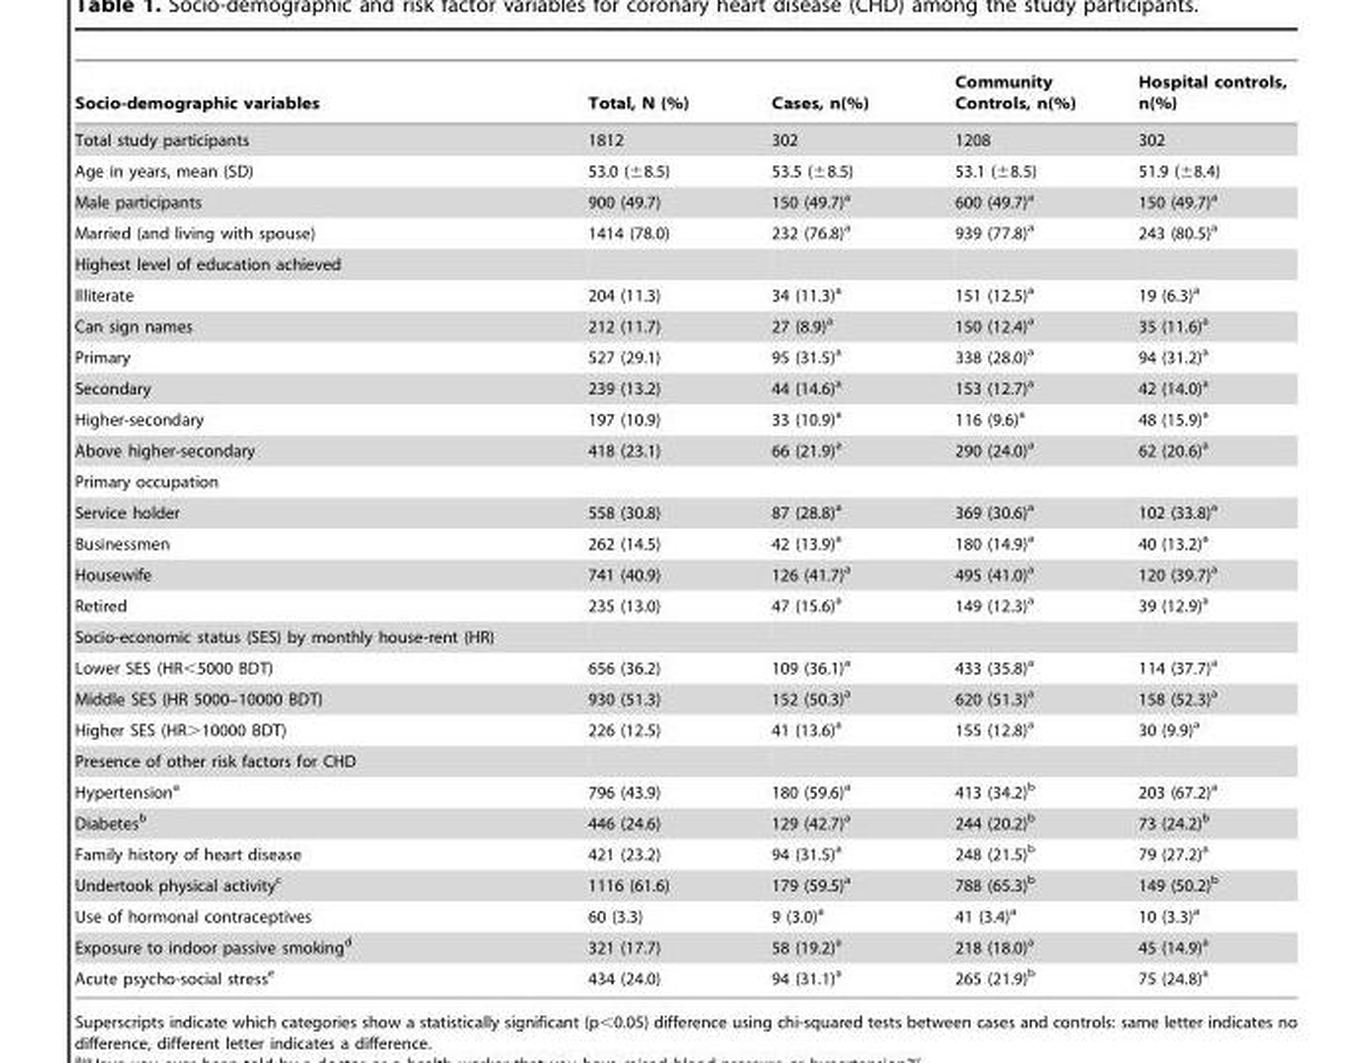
<table><thead><tr><td>Socio-demographic variables</td><td>Total, N (%)</td><td>Cases, n(%)</td><td>Community Controls, n(%)</td><td>Hospital controls, n(%)</td></tr></thead><tbody><tr><td>Total study participants</td><td>1812</td><td>302</td><td>1208</td><td>302</td></tr><tr><td>Age in years, mean (SD)</td><td>53.0 (±8.5)</td><td>53.5 (±8.5)</td><td>53.1 (±8.5)</td><td>51.9 (±8.4)</td></tr><tr><td>Male participants</td><td>900 (49.7)</td><td>150 (49.7)<sup>a</sup></td><td>600 (49.7)<sup>a</sup></td><td>150 (49.7)<sup>a</sup></td></tr><tr><td>Married (and living with spouse)</td><td>1414 (78.0)</td><td>232 (76.8)<sup>a</sup></td><td>939 (77.8)<sup>a</sup></td><td>243 (80.5)<sup>a</sup></td></tr><tr><td colspan="5">Highest level of education achieved</td></tr><tr><td>Illiterate</td><td>204 (11.3)</td><td>34 (11.3)<sup>a</sup></td><td>151 (12.5)<sup>a</sup></td><td>19 (6.3)<sup>a</sup></td></tr><tr><td>Can sign names</td><td>212 (11.7)</td><td>27 (8.9)<sup>a</sup></td><td>150 (12.4)<sup>a</sup></td><td>35 (11.6)<sup>a</sup></td></tr><tr><td>Primary</td><td>527 (29.1)</td><td>95 (31.5)<sup>a</sup></td><td>338 (28.0)<sup>a</sup></td><td>94 (31.2)<sup>a</sup></td></tr><tr><td>Secondary</td><td>239 (13.2)</td><td>44 (14.6)<sup>a</sup></td><td>153 (12.7)<sup>a</sup></td><td>42 (14.0)<sup>a</sup></td></tr><tr><td>Higher-secondary</td><td>197 (10.9)</td><td>33 (10.9)<sup>a</sup></td><td>116 (9.6)<sup>a</sup></td><td>48 (15.9)<sup>a</sup></td></tr><tr><td>Above higher-secondary</td><td>418 (23.1)</td><td>66 (21.9)<sup>a</sup></td><td>290 (24.0)<sup>a</sup></td><td>62 (20.6)<sup>a</sup></td></tr><tr><td colspan="5">Primary occupation</td></tr><tr><td>Service holder</td><td>558 (30.8)</td><td>87 (28.8)<sup>a</sup></td><td>369 (30.6)<sup>a</sup></td><td>102 (33.8)<sup>a</sup></td></tr><tr><td>Businessmen</td><td>262 (14.5)</td><td>42 (13.9)<sup>a</sup></td><td>180 (14.9)<sup>a</sup></td><td>40 (13.2)<sup>a</sup></td></tr><tr><td>Housewife</td><td>741 (40.9)</td><td>126 (41.7)<sup>a</sup></td><td>495 (41.0)<sup>a</sup></td><td>120 (39.7)<sup>a</sup></td></tr><tr><td>Retired</td><td>235 (13.0)</td><td>47 (15.6)<sup>a</sup></td><td>149 (12.3)<sup>a</sup></td><td>39 (12.9)<sup>a</sup></td></tr><tr><td colspan="5">Socio-economic status (SES) by monthly house-rent (HR)</td></tr><tr><td>Lower SES (HR&lt;5000 BDT)</td><td>656 (36.2)</td><td>109 (36.1)<sup>a</sup></td><td>433 (35.8)<sup>a</sup></td><td>114 (37.7)<sup>a</sup></td></tr><tr><td>Middle SES (HR 5000–10000 BDT)</td><td>930 (51.3)</td><td>152 (50.3)<sup>a</sup></td><td>620 (51.3)<sup>a</sup></td><td>158 (52.3)<sup>a</sup></td></tr><tr><td>Higher SES (HR&gt;10000 BDT)</td><td>226 (12.5)</td><td>41 (13.6)<sup>a</sup></td><td>155 (12.8)<sup>a</sup></td><td>30 (9.9)<sup>a</sup></td></tr><tr><td colspan="5">Presence of other risk factors for CHD</td></tr><tr><td>Hypertension<sup>a</sup></td><td>796 (43.9)</td><td>180 (59.6)<sup>a</sup></td><td>413 (34.2)<sup>b</sup></td><td>203 (67.2)<sup>a</sup></td></tr><tr><td>Diabetes<sup>b</sup></td><td>446 (24.6)</td><td>129 (42.7)<sup>a</sup></td><td>244 (20.2)<sup>b</sup></td><td>73 (24.2)<sup>b</sup></td></tr><tr><td>Family history of heart disease</td><td>421 (23.2)</td><td>94 (31.5)<sup>a</sup></td><td>248 (21.5)<sup>b</sup></td><td>79 (27.2)<sup>a</sup></td></tr><tr><td>Undertook physical activity<sup>c</sup></td><td>1116 (61.6)</td><td>179 (59.5)<sup>a</sup></td><td>788 (65.3)<sup>b</sup></td><td>149 (50.2)<sup>b</sup></td></tr><tr><td>Use of hormonal contraceptives</td><td>60 (3.3)</td><td>9 (3.0)<sup>a</sup></td><td>41 (3.4)<sup>a</sup></td><td>10 (3.3)<sup>a</sup></td></tr><tr><td>Exposure to indoor passive smoking<sup>d</sup></td><td>321 (17.7)</td><td>58 (19.2)<sup>a</sup></td><td>218 (18.0)<sup>a</sup></td><td>45 (14.9)<sup>a</sup></td></tr><tr><td>Acute psycho-social stress<sup>e</sup></td><td>434 (24.0)</td><td>94 (31.1)<sup>a</sup></td><td>265 (21.9)<sup>b</sup></td><td>75 (24.8)<sup>a</sup></td></tr></tbody></table>